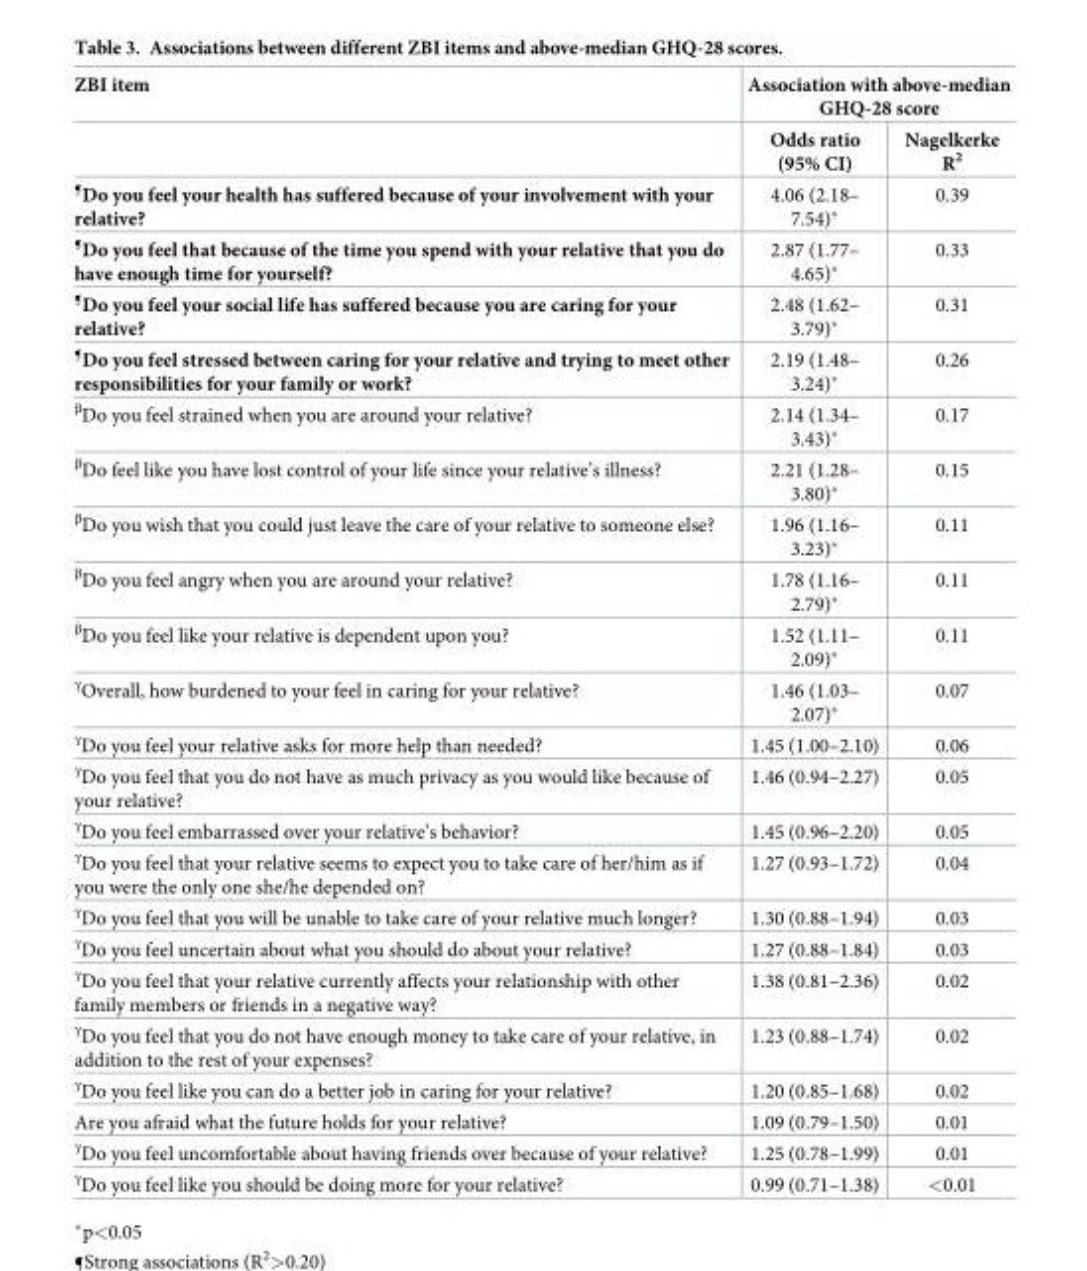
<table><thead><tr><td rowspan="2">ZBI item</td><td colspan="2">Association with above-median GHQ-28 score</td></tr><tr><td>Odds ratio (95% CI)</td><td>Nagelkerke R<sup>2</sup></td></tr></thead><tbody><tr><td><sup>¶</sup>Do you feel your health has suffered because of your involvement with your relative?</td><td>4.06 (2.18– 7.54)*</td><td>0.39</td></tr><tr><td><sup>¶</sup>Do you feel that because of the time you spend with your relative that you do have enough time for yourself?</td><td>2.87 (1.77– 4.65)*</td><td>0.33</td></tr><tr><td><sup>¶</sup>Do you feel your social life has suffered because you are caring for your relative?</td><td>2.48 (1.62– 3.79)*</td><td>0.31</td></tr><tr><td><sup>¶</sup>Do you feel stressed between caring for your relative and trying to meet other responsibilities for your family or work?</td><td>2.19 (1.48– 3.24)*</td><td>0.26</td></tr><tr><td><sup>β</sup>Do you feel strained when you are around your relative?</td><td>2.14 (1.34– 3.43)*</td><td>0.17</td></tr><tr><td><sup>β</sup>Do feel like you have lost control of your life since your relative’s illness?</td><td>2.21 (1.28– 3.80)*</td><td>0.15</td></tr><tr><td><sup>β</sup>Do you wish that you could just leave the care of your relative to someone else?</td><td>1.96 (1.16– 3.23)*</td><td>0.11</td></tr><tr><td><sup>β</sup>Do you feel angry when you are around your relative?</td><td>1.78 (1.16– 2.79)*</td><td>0.11</td></tr><tr><td><sup>β</sup>Do you feel like your relative is dependent upon you?</td><td>1.52 (1.11– 2.09)*</td><td>0.11</td></tr><tr><td><sup>γ</sup>Overall, how burdened to your feel in caring for your relative?</td><td>1.46 (1.03– 2.07)*</td><td>0.07</td></tr><tr><td><sup>γ</sup>Do you feel your relative asks for more help than needed?</td><td>1.45 (1.00–2.10)</td><td>0.06</td></tr><tr><td><sup>γ</sup>Do you feel that you do not have as much privacy as you would like because of your relative?</td><td>1.46 (0.94–2.27)</td><td>0.05</td></tr><tr><td><sup>γ</sup>Do you feel embarrassed over your relative’s behavior?</td><td>1.45 (0.96–2.20)</td><td>0.05</td></tr><tr><td><sup>γ</sup>Do you feel that your relative seems to expect you to take care of her/him as if you were the only one she/he depended on?</td><td>1.27 (0.93–1.72)</td><td>0.04</td></tr><tr><td><sup>γ</sup>Do you feel that you will be unable to take care of your relative much longer?</td><td>1.30 (0.88–1.94)</td><td>0.03</td></tr><tr><td><sup>γ</sup>Do you feel uncertain about what you should do about your relative?</td><td>1.27 (0.88–1.84)</td><td>0.03</td></tr><tr><td><sup>γ</sup>Do you feel that your relative currently affects your relationship with other family members or friends in a negative way?</td><td>1.38 (0.81–2.36)</td><td>0.02</td></tr><tr><td><sup>γ</sup>Do you feel that you do not have enough money to take care of your relative, in addition to the rest of your expenses?</td><td>1.23 (0.88–1.74)</td><td>0.02</td></tr><tr><td><sup>γ</sup>Do you feel like you can do a better job in caring for your relative?</td><td>1.20 (0.85–1.68)</td><td>0.02</td></tr><tr><td>Are you afraid what the future holds for your relative?</td><td>1.09 (0.79–1.50)</td><td>0.01</td></tr><tr><td><sup>γ</sup>Do you feel uncomfortable about having friends over because of your relative?</td><td>1.25 (0.78–1.99)</td><td>0.01</td></tr><tr><td><sup>γ</sup>Do you feel like you should be doing more for your relative?</td><td>0.99 (0.71–1.38)</td><td>&lt;0.01</td></tr></tbody></table>